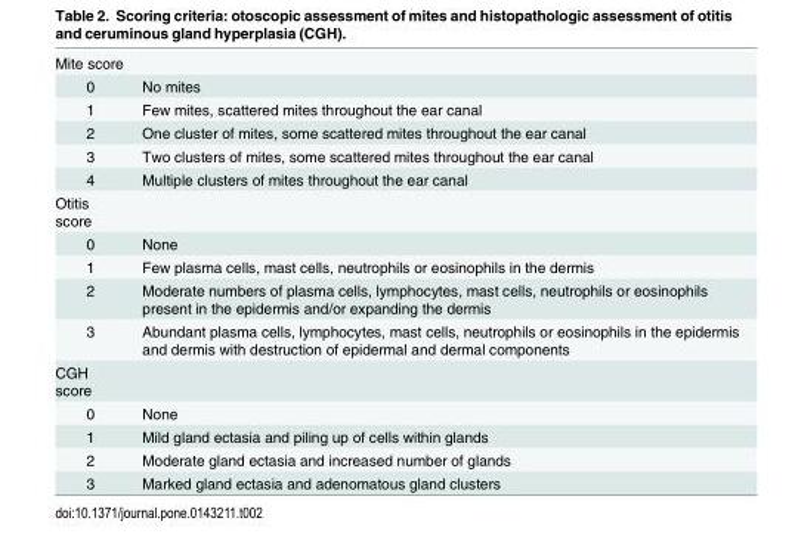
<table><tbody><tr><td colspan="2">Mite score</td></tr><tr><td>0</td><td>No mites</td></tr><tr><td>1</td><td>Few mites, scattered mites throughout the ear canal</td></tr><tr><td>2</td><td>One cluster of mites, some scattered mites throughout the ear canal</td></tr><tr><td>3</td><td>Two clusters of mites, some scattered mites throughout the ear canal</td></tr><tr><td>4</td><td>Multiple clusters of mites throughout the ear canal</td></tr><tr><td colspan="2">Otitis score</td></tr><tr><td>0</td><td>None</td></tr><tr><td>1</td><td>Few plasma cells, mast cells, neutrophils or eosinophils in the dermis</td></tr><tr><td>2</td><td>Moderate numbers of plasma cells, lymphocytes, mast cells, neutrophils or eosinophils present in the epidermis and/or expanding the dermis</td></tr><tr><td>3</td><td>Abundant plasma cells, lymphocytes, mast cells, neutrophils or eosinophils in the epidermis and dermis with destruction of epidermal and dermal components</td></tr><tr><td colspan="2">CGH score</td></tr><tr><td>0</td><td>None</td></tr><tr><td>1</td><td>Mild gland ectasia and piling up of cells within glands</td></tr><tr><td>2</td><td>Moderate gland ectasia and increased number of glands</td></tr><tr><td>3</td><td>Marked gland ectasia and adenomatous gland clusters</td></tr></tbody></table>